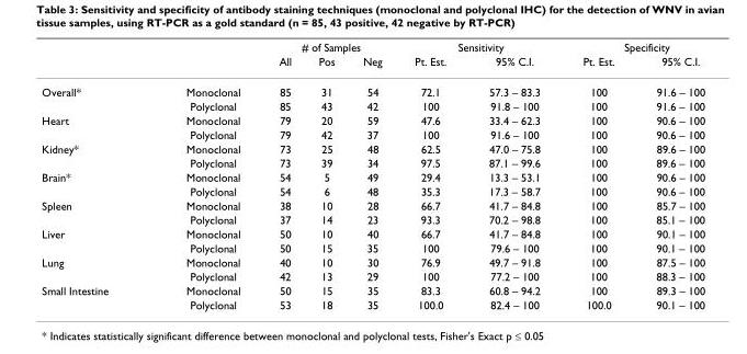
<table><thead><tr><td rowspan="2"></td><td rowspan="2"></td><td colspan="3"># of Samples</td><td colspan="2">Sensitivity</td><td colspan="2">Specificity</td></tr><tr><td>All</td><td>Pos</td><td>Neg</td><td>Pt. Est.</td><td>95% C.I.</td><td>Pt. Est.</td><td>95% C.I.</td></tr></thead><tbody><tr><td rowspan="2">Overall*</td><td>Monoclonal</td><td>85</td><td>31</td><td>54</td><td>72.1</td><td>57.3 – 83.3</td><td>100</td><td>91.6 – 100</td></tr><tr><td>Polyclonal</td><td>85</td><td>43</td><td>42</td><td>100</td><td>91.8 – 100</td><td>100</td><td>91.6 – 100</td></tr><tr><td rowspan="2">Heart</td><td>Monoclonal</td><td>79</td><td>20</td><td>59</td><td>47.6</td><td>33.4 – 62.3</td><td>100</td><td>90.6 – 100</td></tr><tr><td>Polyclonal</td><td>79</td><td>42</td><td>37</td><td>100</td><td>91.6 – 100</td><td>100</td><td>90.6 – 100</td></tr><tr><td rowspan="2">Kidney*</td><td>Monoclonal</td><td>73</td><td>25</td><td>48</td><td>62.5</td><td>47.0 – 75.8</td><td>100</td><td>89.6 – 100</td></tr><tr><td>Polyclonal</td><td>73</td><td>39</td><td>34</td><td>97.5</td><td>87.1 – 99.6</td><td>100</td><td>89.6 – 100</td></tr><tr><td rowspan="2">Brain*</td><td>Monoclonal</td><td>54</td><td>5</td><td>49</td><td>29.4</td><td>13.3 – 53.1</td><td>100</td><td>90.6 – 100</td></tr><tr><td>Polyclonal</td><td>54</td><td>6</td><td>48</td><td>35.3</td><td>17.3 – 58.7</td><td>100</td><td>90.6 – 100</td></tr><tr><td rowspan="2">Spleen</td><td>Monoclonal</td><td>38</td><td>10</td><td>28</td><td>66.7</td><td>41.7 – 84.8</td><td>100</td><td>85.7 – 100</td></tr><tr><td>Polyclonal</td><td>37</td><td>14</td><td>23</td><td>93.3</td><td>70.2 – 98.8</td><td>100</td><td>85.1 – 100</td></tr><tr><td rowspan="2">Liver</td><td>Monoclonal</td><td>50</td><td>10</td><td>40</td><td>66.7</td><td>41.7 – 84.8</td><td>100</td><td>90.1 – 100</td></tr><tr><td>Polyclonal</td><td>50</td><td>15</td><td>35</td><td>100</td><td>79.6 – 100</td><td>100</td><td>90.1 – 100</td></tr><tr><td rowspan="2">Lung</td><td>Monoclonal</td><td>40</td><td>10</td><td>30</td><td>76.9</td><td>49.7 – 91.8</td><td>100</td><td>87.5 – 100</td></tr><tr><td>Polyclonal</td><td>42</td><td>13</td><td>29</td><td>100</td><td>77.2 – 100</td><td>100</td><td>88.3 – 100</td></tr><tr><td rowspan="2">Small Intestine</td><td>Monoclonal</td><td>50</td><td>15</td><td>35</td><td>83.3</td><td>60.8 – 94.2</td><td>100</td><td>89.3 – 100</td></tr><tr><td>Polyclonal</td><td>53</td><td>18</td><td>35</td><td>100.0</td><td>82.4 – 100</td><td>100.0</td><td>90.1 – 100</td></tr></tbody></table>